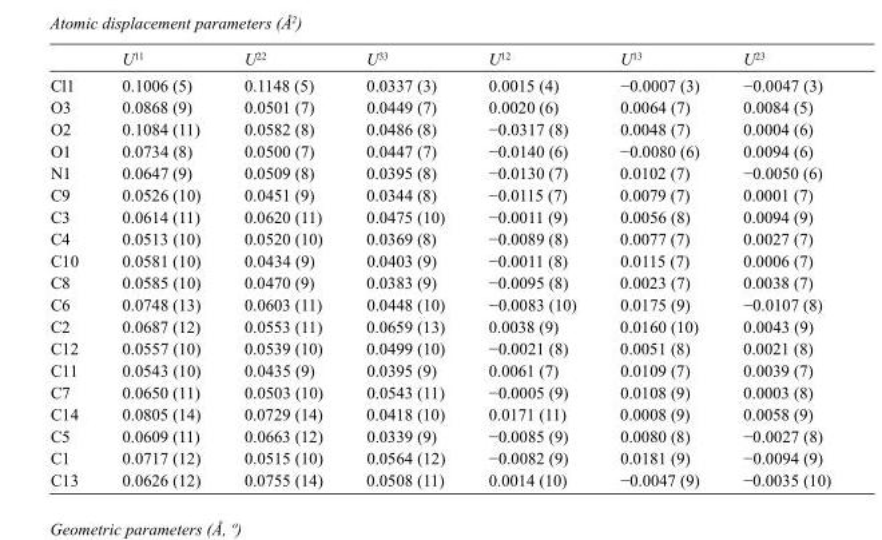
<table><thead><tr><td></td><td>U<sup>11</sup></td><td>U<sup>22</sup></td><td>U<sup>33</sup></td><td>U<sup>12</sup></td><td>U<sup>13</sup></td><td>U<sup>23</sup></td></tr></thead><tbody><tr><td>Cl1</td><td>0.1006 (5)</td><td>0.1148 (5)</td><td>0.0337 (3)</td><td>0.0015 (4)</td><td>−0.0007 (3)</td><td>−0.0047 (3)</td></tr><tr><td>O3</td><td>0.0868 (9)</td><td>0.0501 (7)</td><td>0.0449 (7)</td><td>0.0020 (6)</td><td>0.0064 (7)</td><td>0.0084 (5)</td></tr><tr><td>O2</td><td>0.1084 (11)</td><td>0.0582 (8)</td><td>0.0486 (8)</td><td>−0.0317 (8)</td><td>0.0048 (7)</td><td>0.0004 (6)</td></tr><tr><td>O1</td><td>0.0734 (8)</td><td>0.0500 (7)</td><td>0.0447 (7)</td><td>−0.0140 (6)</td><td>−0.0080 (6)</td><td>0.0094 (6)</td></tr><tr><td>N1</td><td>0.0647 (9)</td><td>0.0509 (8)</td><td>0.0395 (8)</td><td>−0.0130 (7)</td><td>0.0102 (7)</td><td>−0.0050 (6)</td></tr><tr><td>C9</td><td>0.0526 (10)</td><td>0.0451 (9)</td><td>0.0344 (8)</td><td>−0.0115 (7)</td><td>0.0079 (7)</td><td>0.0001 (7)</td></tr><tr><td>C3</td><td>0.0614 (11)</td><td>0.0620 (11)</td><td>0.0475 (10)</td><td>−0.0011 (9)</td><td>0.0056 (8)</td><td>0.0094 (9)</td></tr><tr><td>C4</td><td>0.0513 (10)</td><td>0.0520 (10)</td><td>0.0369 (8)</td><td>−0.0089 (8)</td><td>0.0077 (7)</td><td>0.0027 (7)</td></tr><tr><td>C10</td><td>0.0581 (10)</td><td>0.0434 (9)</td><td>0.0403 (9)</td><td>−0.0011 (8)</td><td>0.0115 (7)</td><td>0.0006 (7)</td></tr><tr><td>C8</td><td>0.0585 (10)</td><td>0.0470 (9)</td><td>0.0383 (9)</td><td>−0.0095 (8)</td><td>0.0023 (7)</td><td>0.0038 (7)</td></tr><tr><td>C6</td><td>0.0748 (13)</td><td>0.0603 (11)</td><td>0.0448 (10)</td><td>−0.0083 (10)</td><td>0.0175 (9)</td><td>−0.0107 (8)</td></tr><tr><td>C2</td><td>0.0687 (12)</td><td>0.0553 (11)</td><td>0.0659 (13)</td><td>0.0038 (9)</td><td>0.0160 (10)</td><td>0.0043 (9)</td></tr><tr><td>C12</td><td>0.0557 (10)</td><td>0.0539 (10)</td><td>0.0499 (10)</td><td>−0.0021 (8)</td><td>0.0051 (8)</td><td>0.0021 (8)</td></tr><tr><td>C11</td><td>0.0543 (10)</td><td>0.0435 (9)</td><td>0.0395 (9)</td><td>0.0061 (7)</td><td>0.0109 (7)</td><td>0.0039 (7)</td></tr><tr><td>C7</td><td>0.0650 (11)</td><td>0.0503 (10)</td><td>0.0543 (11)</td><td>−0.0005 (9)</td><td>0.0108 (9)</td><td>0.0003 (8)</td></tr><tr><td>C14</td><td>0.0805 (14)</td><td>0.0729 (14)</td><td>0.0418 (10)</td><td>0.0171 (11)</td><td>0.0008 (9)</td><td>0.0058 (9)</td></tr><tr><td>C5</td><td>0.0609 (11)</td><td>0.0663 (12)</td><td>0.0339 (9)</td><td>−0.0085 (9)</td><td>0.0080 (8)</td><td>−0.0027 (8)</td></tr><tr><td>C1</td><td>0.0717 (12)</td><td>0.0515 (10)</td><td>0.0564 (12)</td><td>−0.0082 (9)</td><td>0.0181 (9)</td><td>−0.0094 (9)</td></tr><tr><td>C13</td><td>0.0626 (12)</td><td>0.0755 (14)</td><td>0.0508 (11)</td><td>0.0014 (10)</td><td>−0.0047 (9)</td><td>−0.0035 (10)</td></tr></tbody></table>